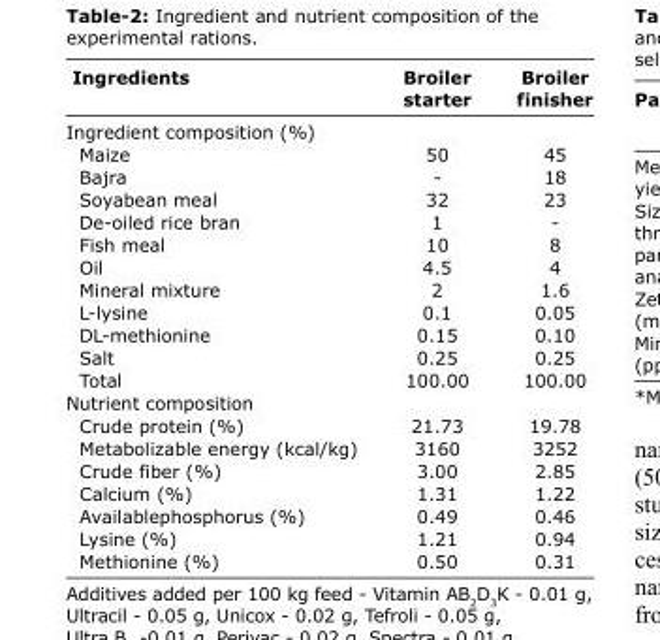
<table><thead><tr><td>Ingredients</td><td>Broiler starter</td><td>Broiler finisher</td></tr></thead><tbody><tr><td colspan="3">Ingredient composition (%)</td></tr><tr><td>Maize</td><td>50</td><td>45</td></tr><tr><td>Bajra</td><td>-</td><td>18</td></tr><tr><td>Soyabean meal</td><td>32</td><td>23</td></tr><tr><td>De-oiled rice bran</td><td>1</td><td>-</td></tr><tr><td>Fish meal</td><td>10</td><td>8</td></tr><tr><td>Oil</td><td>4.5</td><td>4</td></tr><tr><td>Mineral mixture</td><td>2</td><td>1.6</td></tr><tr><td>L-lysine</td><td>0.1</td><td>0.05</td></tr><tr><td>DL-methionine</td><td>0.15</td><td>0.10</td></tr><tr><td>Salt</td><td>0.25</td><td>0.25</td></tr><tr><td>Total</td><td>100.00</td><td>100.00</td></tr><tr><td colspan="3">Nutrient composition</td></tr><tr><td>Crude protein (%)</td><td>21.73</td><td>19.78</td></tr><tr><td>Metabolizable energy (kcal/kg)</td><td>3160</td><td>3252</td></tr><tr><td>Crude fiber (%)</td><td>3.00</td><td>2.85</td></tr><tr><td>Calcium (%)</td><td>1.31</td><td>1.22</td></tr><tr><td>Availablephosphorus (%)</td><td>0.49</td><td>0.46</td></tr><tr><td>Lysine (%)</td><td>1.21</td><td>0.94</td></tr><tr><td>Methionine (%)</td><td>0.50</td><td>0.31</td></tr></tbody></table>